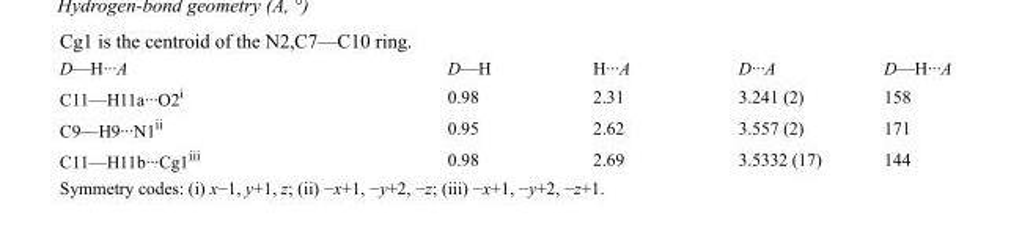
<table><tbody><tr><td>D—H···A</td><td>D—H</td><td>H···A</td><td>D···A</td><td>D—H···A</td></tr><tr><td>C11—H11a···O2<sup>i</sup></td><td>0.98</td><td>2.31</td><td>3.241 (2)</td><td>158</td></tr><tr><td>C9—H9···N1<sup>ii</sup></td><td>0.95</td><td>2.62</td><td>3.557 (2)</td><td>171</td></tr><tr><td>C11—H11b···Cg1<sup>iii</sup></td><td>0.98</td><td>2.69</td><td>3.5332 (17)</td><td>144</td></tr></tbody></table>